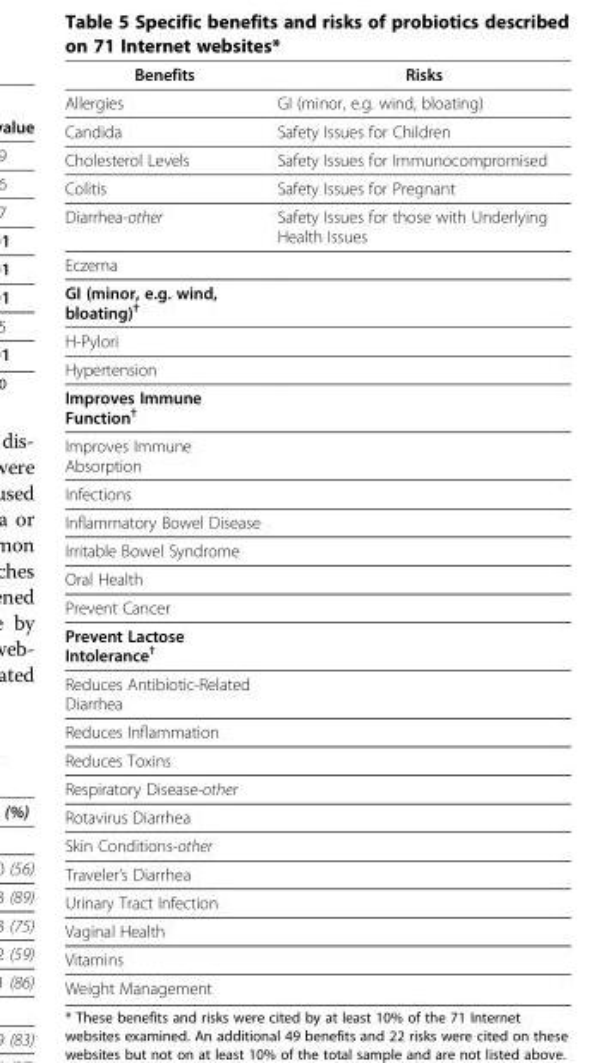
<table><thead><tr><td>Benefits</td><td>Risks</td></tr></thead><tbody><tr><td>Allergies</td><td>GI (minor, e.g. wind, bloating)</td></tr><tr><td>Candida</td><td>Safety Issues for Children</td></tr><tr><td>Cholesterol Levels</td><td>Safety Issues for Immunocompromised</td></tr><tr><td>Colitis</td><td>Safety Issues for Pregnant</td></tr><tr><td>Diarrhea-other</td><td>Safety Issues for those with Underlying Health Issues</td></tr><tr><td colspan="2">Eczema</td></tr><tr><td colspan="2">GI (minor, e.g. wind, bloating)<sup>†</sup></td></tr><tr><td colspan="2">H-Pylori</td></tr><tr><td colspan="2">Hypertension</td></tr><tr><td colspan="2">Improves Immune Function<sup>†</sup></td></tr><tr><td colspan="2">Improves Immune Absorption</td></tr><tr><td colspan="2">Infections</td></tr><tr><td colspan="2">Inflammatory Bowel Disease</td></tr><tr><td colspan="2">Irritable Bowel Syndrome</td></tr><tr><td colspan="2">Oral Health</td></tr><tr><td colspan="2">Prevent Cancer</td></tr><tr><td colspan="2">Prevent Lactose Intolerance<sup>†</sup></td></tr><tr><td colspan="2">Reduces Antibiotic-Related Diarrhea</td></tr><tr><td colspan="2">Reduces Inflammation</td></tr><tr><td colspan="2">Reduces Toxins</td></tr><tr><td colspan="2">Respiratory Disease-other</td></tr><tr><td colspan="2">Rotavirus Diarrhea</td></tr><tr><td colspan="2">Skin Conditions-other</td></tr><tr><td colspan="2">Traveler’s Diarrhea</td></tr><tr><td colspan="2">Urinary Tract Infection</td></tr><tr><td colspan="2">Vaginal Health</td></tr><tr><td colspan="2">Vitamins</td></tr><tr><td>Weight Management</td><td></td></tr></tbody></table>